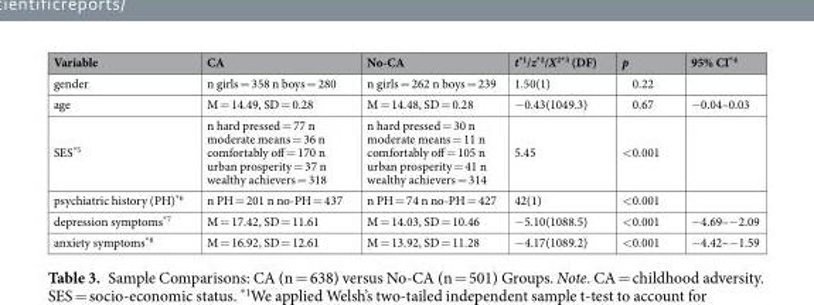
<table><thead><tr><td>Variable</td><td>CA</td><td>No-CA</td><td>t<sup>*1</sup>/z<sup>*2</sup>/X<sup>2*3</sup> (DF)</td><td>p</td><td>95% CI<sup>*4</sup></td></tr></thead><tbody><tr><td>gender</td><td>n girls = 358 n boys = 280</td><td>n girls = 262 n boys = 239</td><td>1.50(1)</td><td>0.22</td><td></td></tr><tr><td>age</td><td>M = 14.49, SD = 0.28</td><td>M = 14.48, SD = 0.28</td><td>−0.43(1049.3)</td><td>0.67</td><td>−0.04–0.03</td></tr><tr><td>SES<sup>*5</sup></td><td>n hard pressed = 77 n moderate means = 36 n comfortably off = 170 n urban prosperity = 37 n wealthy achievers = 318</td><td>n hard pressed = 30 n moderate means = 11 n comfortably off = 105 n urban prosperity = 41 n wealthy achievers = 314</td><td>5.45</td><td>&lt;0.001</td><td></td></tr><tr><td>psychiatric history (PH)<sup>*6</sup></td><td>n PH = 201 n no-PH = 437</td><td>n PH = 74 n no-PH = 427</td><td>42(1)</td><td>&lt;0.001</td><td></td></tr><tr><td>depression symptoms<sup>*7</sup></td><td>M = 17.42, SD = 11.61</td><td>M = 14.03, SD = 10.46</td><td>−5.10(1088.5)</td><td>&lt;0.001</td><td>−4.69–−2.09</td></tr><tr><td>anxiety symptoms<sup>*8</sup></td><td>M = 16.92, SD = 12.61</td><td>M = 13.92, SD = 11.28</td><td>−4.17(1089.2)</td><td>&lt;0.001</td><td>−4.42–−1.59</td></tr></tbody></table>